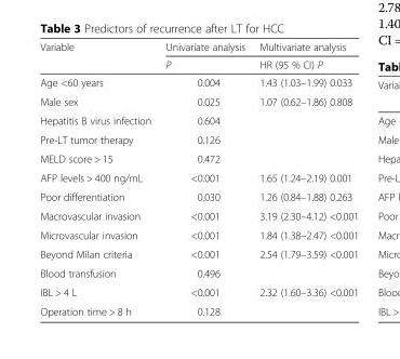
<table><thead><tr><td rowspan="2">Variable</td><td rowspan="2">Univariate analysis P</td><td rowspan="2">Multivariate analysis HR (95 % CI) P</td></tr><tr></tr></thead><tbody><tr><td>Age &lt;60 years</td><td>0.004</td><td>1.43 (1.03–1.99) 0.033</td></tr><tr><td>Male sex</td><td>0.025</td><td>1.07 (0.62–1.86) 0.808</td></tr><tr><td>Hepatitis B virus infection</td><td>0.604</td><td></td></tr><tr><td>Pre-LT tumor therapy</td><td>0.126</td><td></td></tr><tr><td>MELD score &gt; 15</td><td>0.472</td><td></td></tr><tr><td>AFP levels &gt; 400 ng/mL</td><td>&lt;0.001</td><td>1.65 (1.24–2.19) 0.001</td></tr><tr><td>Poor differentiation</td><td>0.030</td><td>1.26 (0.84–1.88) 0.263</td></tr><tr><td>Macrovascular invasion</td><td>&lt;0.001</td><td>3.19 (2.30–4.12) &lt;0.001</td></tr><tr><td>Microvascular invasion</td><td>&lt;0.001</td><td>1.84 (1.38–2.47) &lt;0.001</td></tr><tr><td>Beyond Milan criteria</td><td>&lt;0.001</td><td>2.54 (1.79–3.59) &lt;0.001</td></tr><tr><td>Blood transfusion</td><td>0.496</td><td></td></tr><tr><td>IBL &gt; 4 L</td><td>&lt;0.001</td><td>2.32 (1.60–3.36) &lt;0.001</td></tr><tr><td>Operation time &gt; 8 h</td><td>0.128</td><td></td></tr></tbody></table>